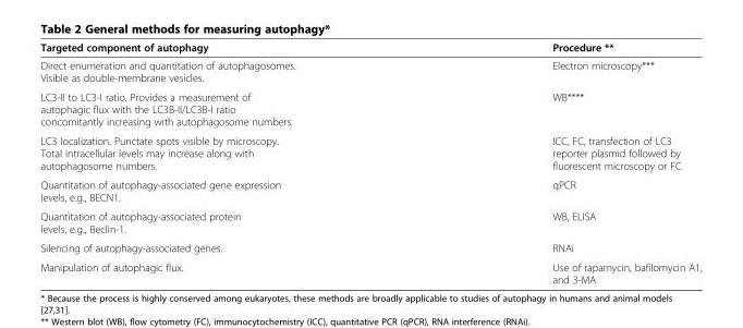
<table><thead><tr><td>Targeted component of autophagy</td><td>Procedure **</td></tr></thead><tbody><tr><td>Direct enumeration and quantitation of autophagosomes. Visible as double-membrane vesicles.</td><td>Electron microscopy***</td></tr><tr><td>LC3-II to LC3-I ratio. Provides a measurement of autophagic flux with the LC3B-II/LC3B-I ratio concomitantly increasing with autophagosome numbers.</td><td>WB****</td></tr><tr><td>LC3 localization. Punctate spots visible by microscopy. Total intracellular levels may increase along with autophagosome numbers.</td><td>ICC, FC, transfection of LC3 reporter plasmid followed by fluorescent microscopy or FC</td></tr><tr><td>Quantitation of autophagy-associated gene expression levels, e.g., BECN1.</td><td>qPCR</td></tr><tr><td>Quantitation of autophagy-associated protein levels, e.g., Beclin-1.</td><td>WB, ELISA</td></tr><tr><td>Silencing of autophagy-associated genes.</td><td>RNAi</td></tr><tr><td>Manipulation of autophagic flux.</td><td>Use of rapamycin, bafilomycin A1, and 3-MA</td></tr></tbody></table>